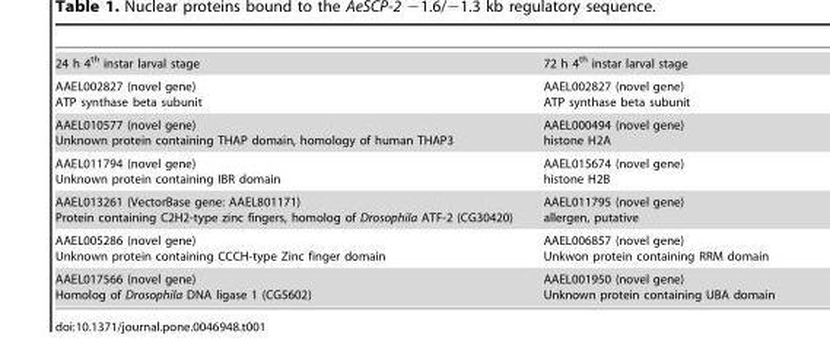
<table><tbody><tr><td>24 h 4<sup>th</sup> instar larval stage</td><td>72 h 4<sup>th</sup> instar larval stage</td></tr><tr><td>AAEL002827 (novel gene) ATP synthase beta subunit</td><td>AAEL002827 (novel gene) ATP synthase beta subunit</td></tr><tr><td>AAEL010577 (novel gene) Unknown protein containing THAP domain, homology of human THAP3</td><td>AAEL000494 (novel gene) histone H2A</td></tr><tr><td>AAEL011794 (novel gene) Unknown protein containing IBR domain</td><td>AAEL015674 (novel gene) histone H2B</td></tr><tr><td>AAEL013261 (VectorBase gene: AAEL801171) Protein containing C2H2-type zinc fingers, homolog of Drosophila ATF-2 (CG30420)</td><td>AAEL011795 (novel gene) allergen, putative</td></tr><tr><td>AAEL005286 (novel gene) Unknown protein containing CCCH-type Zinc finger domain</td><td>AAEL006857 (novel gene) Unkwon protein containing RRM domain</td></tr><tr><td>AAEL017566 (novel gene) Homolog of Drosophila DNA ligase 1 (CG5602)</td><td>AAEL001950 (novel gene) Unknown protein containing UBA domain</td></tr></tbody></table>